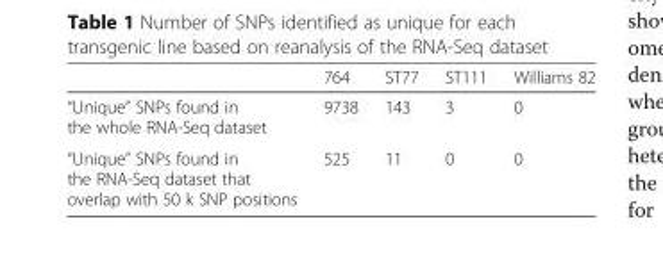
<table><thead><tr><td></td><td>764</td><td>ST77</td><td>ST111</td><td>Williams 82</td></tr></thead><tbody><tr><td>“Unique” SNPs found in the whole RNA-Seq dataset</td><td>9738</td><td>143</td><td>3</td><td>0</td></tr><tr><td>“Unique” SNPs found in the RNA-Seq dataset that overlap with 50 k SNP positions</td><td>525</td><td>11</td><td>0</td><td>0</td></tr></tbody></table>